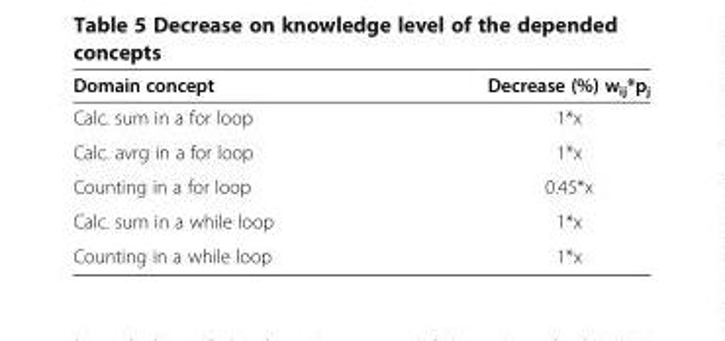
<table><thead><tr><td>Domain concept</td><td>Decrease (%) w<sub>ij</sub>*p<sub>j</sub></td></tr></thead><tbody><tr><td>Calc. sum in a for loop</td><td>1*x</td></tr><tr><td>Calc. avrg in a for loop</td><td>1*x</td></tr><tr><td>Counting in a for loop</td><td>0.45*x</td></tr><tr><td>Calc. sum in a while loop</td><td>1*x</td></tr><tr><td>Counting in a while loop</td><td>1*x</td></tr></tbody></table>